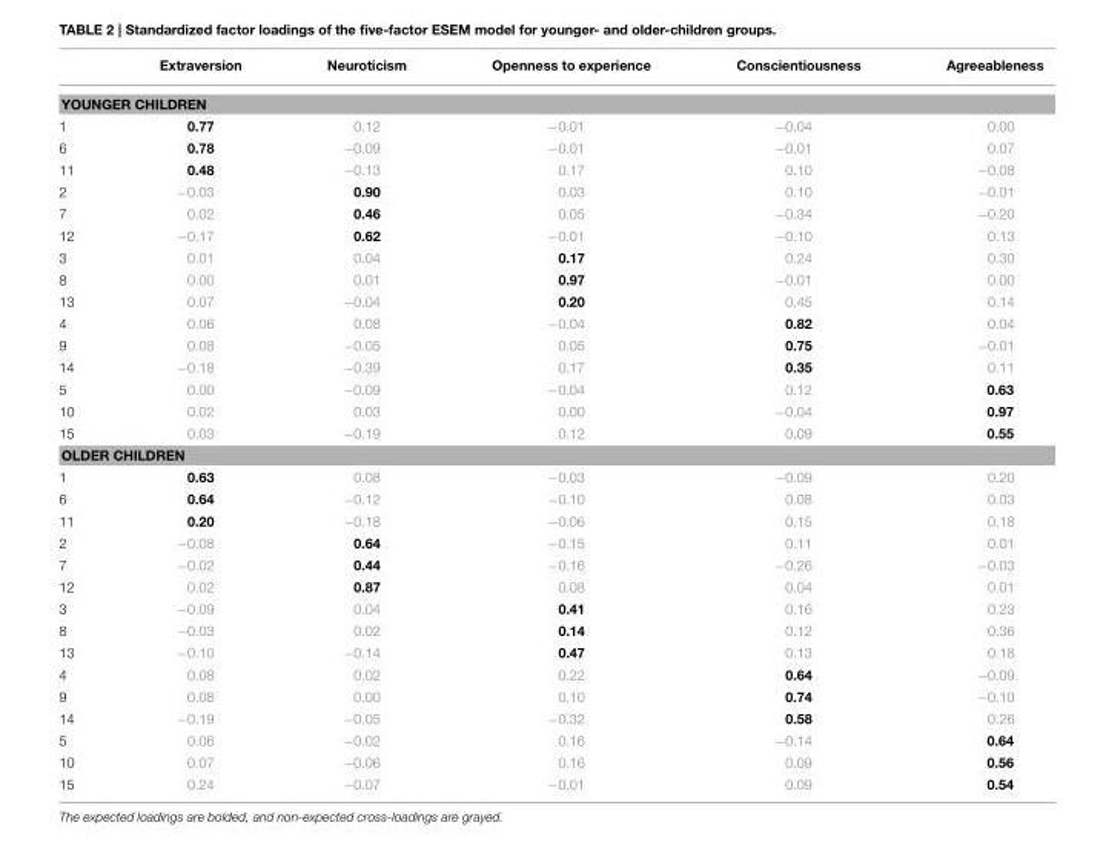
<table><thead><tr><td></td><td>Extraversion</td><td>Neuroticism</td><td>Openness to experience</td><td>Conscientiousness</td><td>Agreeableness</td></tr></thead><tbody><tr><td colspan="6">YOUNGER CHILDREN</td></tr><tr><td>1</td><td>0.77</td><td>0.12</td><td>−0.01</td><td>−0.04</td><td>0.00</td></tr><tr><td>6</td><td>0.78</td><td>−0.09</td><td>−0.01</td><td>−0.01</td><td>0.07</td></tr><tr><td>11</td><td>0.48</td><td>−0.13</td><td>0.17</td><td>0.10</td><td>−0.08</td></tr><tr><td>2</td><td>−0.03</td><td>0.90</td><td>0.03</td><td>0.10</td><td>−0.01</td></tr><tr><td>7</td><td>0.02</td><td>0.46</td><td>0.05</td><td>−0.34</td><td>−0.20</td></tr><tr><td>12</td><td>−0.17</td><td>0.62</td><td>−0.01</td><td>−0.10</td><td>0.13</td></tr><tr><td>3</td><td>0.01</td><td>0.04</td><td>0.17</td><td>0.24</td><td>0.30</td></tr><tr><td>8</td><td>0.00</td><td>0.01</td><td>0.97</td><td>−0.01</td><td>0.00</td></tr><tr><td>13</td><td>0.07</td><td>−0.04</td><td>0.20</td><td>0.45</td><td>0.14</td></tr><tr><td>4</td><td>0.06</td><td>0.08</td><td>−0.04</td><td>0.82</td><td>0.04</td></tr><tr><td>9</td><td>0.08</td><td>−0.05</td><td>0.05</td><td>0.75</td><td>−0.01</td></tr><tr><td>14</td><td>−0.18</td><td>−0.39</td><td>0.17</td><td>0.35</td><td>0.11</td></tr><tr><td>5</td><td>0.00</td><td>−0.09</td><td>−0.04</td><td>0.12</td><td>0.63</td></tr><tr><td>10</td><td>0.02</td><td>0.03</td><td>0.00</td><td>−0.04</td><td>0.97</td></tr><tr><td>15</td><td>0.03</td><td>−0.19</td><td>0.12</td><td>0.09</td><td>0.55</td></tr><tr><td colspan="6">OLDER CHILDREN</td></tr><tr><td>1</td><td>0.63</td><td>0.08</td><td>−0.03</td><td>−0.09</td><td>0.20</td></tr><tr><td>6</td><td>0.64</td><td>−0.12</td><td>−0.10</td><td>0.08</td><td>0.03</td></tr><tr><td>11</td><td>0.20</td><td>−0.18</td><td>−0.06</td><td>0.15</td><td>0.18</td></tr><tr><td>2</td><td>−0.08</td><td>0.64</td><td>−0.15</td><td>0.11</td><td>0.01</td></tr><tr><td>7</td><td>−0.02</td><td>0.44</td><td>−0.16</td><td>−0.26</td><td>−0.03</td></tr><tr><td>12</td><td>0.02</td><td>0.87</td><td>0.08</td><td>0.04</td><td>0.01</td></tr><tr><td>3</td><td>−0.09</td><td>0.04</td><td>0.41</td><td>0.16</td><td>0.23</td></tr><tr><td>8</td><td>−0.03</td><td>0.02</td><td>0.14</td><td>0.12</td><td>0.36</td></tr><tr><td>13</td><td>−0.10</td><td>−0.14</td><td>0.47</td><td>0.13</td><td>0.18</td></tr><tr><td>4</td><td>0.08</td><td>0.02</td><td>0.22</td><td>0.64</td><td>−0.09</td></tr><tr><td>9</td><td>0.08</td><td>0.00</td><td>0.10</td><td>0.74</td><td>−0.10</td></tr><tr><td>14</td><td>−0.19</td><td>−0.05</td><td>−0.32</td><td>0.58</td><td>0.26</td></tr><tr><td>5</td><td>0.06</td><td>−0.02</td><td>0.16</td><td>−0.14</td><td>0.64</td></tr><tr><td>10</td><td>0.07</td><td>−0.06</td><td>0.16</td><td>0.09</td><td>0.56</td></tr><tr><td>15</td><td>0.24</td><td>−0.07</td><td>−0.01</td><td>0.09</td><td>0.54</td></tr></tbody></table>